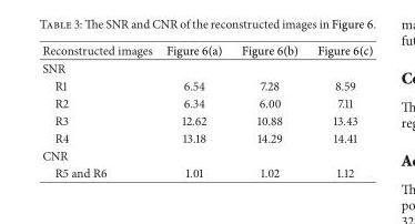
<table><thead><tr><td>Reconstructed images</td><td>Figure 6(a)</td><td>Figure 6(b)</td><td>Figure 6(c)</td></tr></thead><tbody><tr><td colspan="4">SNR</td></tr><tr><td>R1</td><td>6.54</td><td>7.28</td><td>8.59</td></tr><tr><td>R2</td><td>6.34</td><td>6.00</td><td>7.11</td></tr><tr><td>R3</td><td>12.62</td><td>10.88</td><td>13.43</td></tr><tr><td>R4</td><td>13.18</td><td>14.29</td><td>14.41</td></tr><tr><td colspan="4">CNR</td></tr><tr><td>R5 and R6</td><td>1.01</td><td>1.02</td><td>1.12</td></tr></tbody></table>